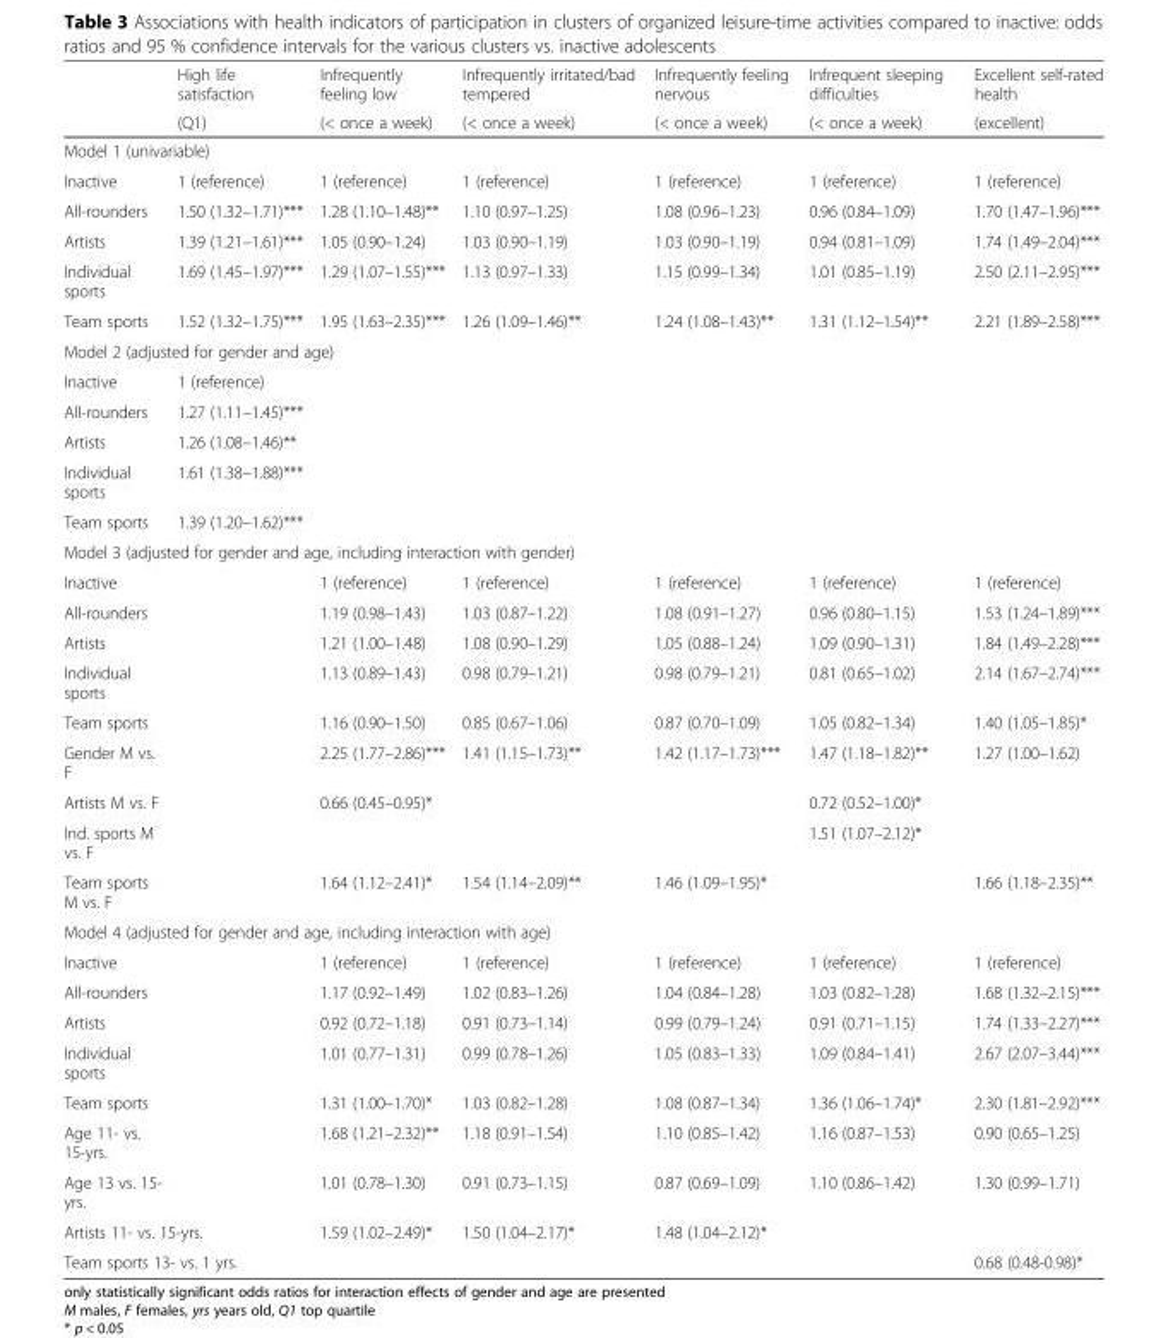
<table><thead><tr><td rowspan="2"></td><td rowspan="2">High life satisfaction (Q1)</td><td rowspan="2">Infrequently feeling low (&lt; once a week)</td><td rowspan="2">Infrequently irritated/bad tempered (&lt; once a week)</td><td rowspan="2">Infrequently feeling nervous (&lt; once a week)</td><td rowspan="2">Infrequent sleeping difficulties (&lt; once a week)</td><td rowspan="2">Excellent self-rated health (excellent)</td></tr><tr></tr></thead><tbody><tr><td colspan="7">Model 1 (univariable)</td></tr><tr><td>Inactive</td><td>1 (reference)</td><td>1 (reference)</td><td>1 (reference)</td><td>1 (reference)</td><td>1 (reference)</td><td>1 (reference)</td></tr><tr><td>All-rounders</td><td>1.50 (1.32–1.71)***</td><td>1.28 (1.10–1.48)**</td><td>1.10 (0.97–1.25)</td><td>1.08 (0.96–1.23)</td><td>0.96 (0.84–1.09)</td><td>1.70 (1.47–1.96)***</td></tr><tr><td>Artists</td><td>1.39 (1.21–1.61)***</td><td>1.05 (0.90–1.24)</td><td>1.03 (0.90–1.19)</td><td>1.03 (0.90–1.19)</td><td>0.94 (0.81–1.09)</td><td>1.74 (1.49–2.04)***</td></tr><tr><td>Individual sports</td><td>1.69 (1.45–1.97)***</td><td>1.29 (1.07–1.55)***</td><td>1.13 (0.97–1.33)</td><td>1.15 (0.99–1.34)</td><td>1.01 (0.85–1.19)</td><td>2.50 (2.11–2.95)***</td></tr><tr><td>Team sports</td><td>1.52 (1.32–1.75)***</td><td>1.95 (1.63–2.35)***</td><td>1.26 (1.09–1.46)**</td><td>1.24 (1.08–1.43)**</td><td>1.31 (1.12–1.54)**</td><td>2.21 (1.89–2.58)***</td></tr><tr><td colspan="7">Model 2 (adjusted for gender and age)</td></tr><tr><td>Inactive</td><td>1 (reference)</td><td></td><td></td><td></td><td></td><td></td></tr><tr><td>All-rounders</td><td>1.27 (1.11–1.45)***</td><td></td><td></td><td></td><td></td><td></td></tr><tr><td>Artists</td><td>1.26 (1.08–1.46)**</td><td></td><td></td><td></td><td></td><td></td></tr><tr><td>Individual sports</td><td>1.61 (1.38–1.88)***</td><td></td><td></td><td></td><td></td><td></td></tr><tr><td>Team sports</td><td>1.39 (1.20–1.62)***</td><td></td><td></td><td></td><td></td><td></td></tr><tr><td colspan="7">Model 3 (adjusted for gender and age, including interaction with gender)</td></tr><tr><td>Inactive</td><td></td><td>1 (reference)</td><td>1 (reference)</td><td>1 (reference)</td><td>1 (reference)</td><td>1 (reference)</td></tr><tr><td>All-rounders</td><td></td><td>1.19 (0.98–1.43)</td><td>1.03 (0.87–1.22)</td><td>1.08 (0.91–1.27)</td><td>0.96 (0.80–1.15)</td><td>1.53 (1.24–1.89)***</td></tr><tr><td>Artists</td><td></td><td>1.21 (1.00–1.48)</td><td>1.08 (0.90–1.29)</td><td>1.05 (0.88–1.24)</td><td>1.09 (0.90–1.31)</td><td>1.84 (1.49–2.28)***</td></tr><tr><td>Individual sports</td><td></td><td>1.13 (0.89–1.43)</td><td>0.98 (0.79–1.21)</td><td>0.98 (0.79–1.21)</td><td>0.81 (0.65–1.02)</td><td>2.14 (1.67–2.74)***</td></tr><tr><td>Team sports</td><td></td><td>1.16 (0.90–1.50)</td><td>0.85 (0.67–1.06)</td><td>0.87 (0.70–1.09)</td><td>1.05 (0.82–1.34)</td><td>1.40 (1.05–1.85)*</td></tr><tr><td>Gender M vs. F</td><td></td><td>2.25 (1.77–2.86)***</td><td>1.41 (1.15–1.73)**</td><td>1.42 (1.17–1.73)***</td><td>1.47 (1.18–1.82)**</td><td>1.27 (1.00–1.62)</td></tr><tr><td>Artists M vs. F</td><td></td><td>0.66 (0.45–0.95)*</td><td></td><td></td><td>0.72 (0.52–1.00)*</td><td></td></tr><tr><td>Ind. sports M vs. F</td><td></td><td></td><td></td><td></td><td>1.51 (1.07–2.12)*</td><td></td></tr><tr><td>Team sports M vs. F</td><td></td><td>1.64 (1.12–2.41)*</td><td>1.54 (1.14–2.09)**</td><td>1.46 (1.09–1.95)*</td><td></td><td>1.66 (1.18–2.35)**</td></tr><tr><td colspan="7">Model 4 (adjusted for gender and age, including interaction with age)</td></tr><tr><td>Inactive</td><td></td><td>1 (reference)</td><td>1 (reference)</td><td>1 (reference)</td><td>1 (reference)</td><td>1 (reference)</td></tr><tr><td>All-rounders</td><td></td><td>1.17 (0.92–1.49)</td><td>1.02 (0.83–1.26)</td><td>1.04 (0.84–1.28)</td><td>1.03 (0.82–1.28)</td><td>1.68 (1.32–2.15)***</td></tr><tr><td>Artists</td><td></td><td>0.92 (0.72–1.18)</td><td>0.91 (0.73–1.14)</td><td>0.99 (0.79–1.24)</td><td>0.91 (0.71–1.15)</td><td>1.74 (1.33–2.27)***</td></tr><tr><td>Individual sports</td><td></td><td>1.01 (0.77–1.31)</td><td>0.99 (0.78–1.26)</td><td>1.05 (0.83–1.33)</td><td>1.09 (0.84–1.41)</td><td>2.67 (2.07–3.44)***</td></tr><tr><td>Team sports</td><td></td><td>1.31 (1.00–1.70)*</td><td>1.03 (0.82–1.28)</td><td>1.08 (0.87–1.34)</td><td>1.36 (1.06–1.74)*</td><td>2.30 (1.81–2.92)***</td></tr><tr><td>Age 11- vs. 15-yrs.</td><td></td><td>1.68 (1.21–2.32)**</td><td>1.18 (0.91–1.54)</td><td>1.10 (0.85–1.42)</td><td>1.16 (0.87–1.53)</td><td>0.90 (0.65–1.25)</td></tr><tr><td>Age 13 vs. 15- yrs.</td><td></td><td>1.01 (0.78–1.30)</td><td>0.91 (0.73–1.15)</td><td>0.87 (0.69–1.09)</td><td>1.10 (0.86–1.42)</td><td>1.30 (0.99–1.71)</td></tr><tr><td colspan="2">Artists 11- vs. 15-yrs.</td><td>1.59 (1.02–2.49)*</td><td>1.50 (1.04–2.17)*</td><td>1.48 (1.04–2.12)*</td><td></td><td></td></tr><tr><td colspan="2">Team sports 13- vs. 1 yrs.</td><td></td><td></td><td></td><td></td><td>0.68 (0.48-0.98)*</td></tr></tbody></table>